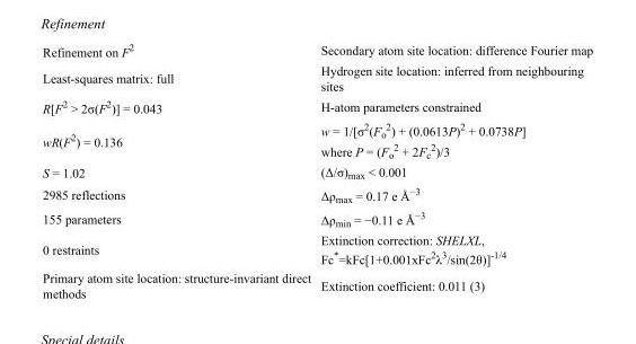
<table><tbody><tr><td>Refinement on F<sup>2</sup></td><td>Secondary atom site location: difference Fourier map</td></tr><tr><td>Least-squares matrix: full</td><td>Hydrogen site location: inferred from neighbouring sites</td></tr><tr><td>R[F<sup>2</sup> &gt; 2σ(F<sup>2</sup>)] = 0.043</td><td>H-atom parameters constrained</td></tr><tr><td>wR(F<sup>2</sup>) = 0.136</td><td>w = 1/[σ<sup>2</sup>(F<sub>o</sub> <sup>2</sup>) + (0.0613P)<sup>2</sup> + 0.0738P] where P = (F<sub>o</sub> <sup>2</sup> + 2F<sub>c</sub> <sup>2</sup>)/3</td></tr><tr><td>S = 1.02</td><td>(Δ/σ)<sub>max</sub> &lt; 0.001</td></tr><tr><td>2985 reflections</td><td>Δρ<sub>max</sub> = 0.17 e Å<sup>−3</sup></td></tr><tr><td>155 parameters</td><td>Δρ<sub>min</sub> = −0.11 e Å<sup>−3</sup></td></tr><tr><td>0 restraints</td><td>Extinction correction: SHELXL, Fc*=kFc[1+0.001xFc<sup>2</sup>λ<sup>3</sup>/sin(2θ)]<sup>-1/4</sup></td></tr><tr><td>Primary atom site location: structure-invariant direct methods</td><td>Extinction coefficient: 0.011 (3)</td></tr></tbody></table>